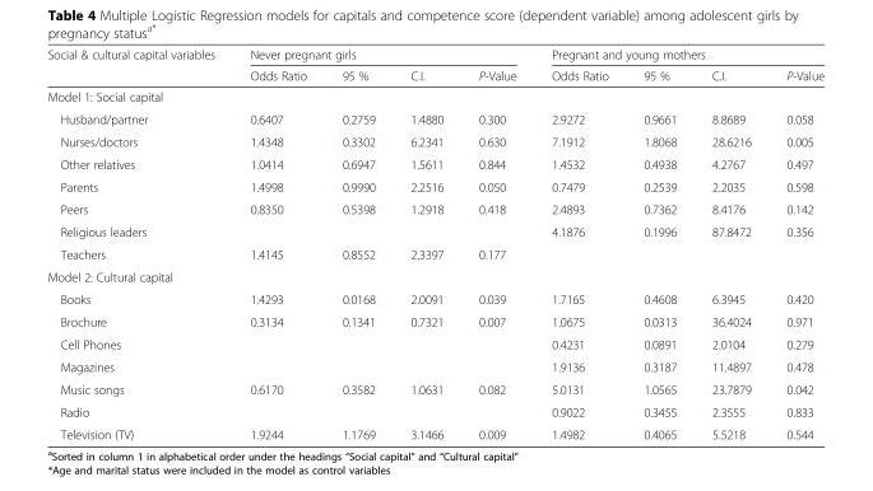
<table><thead><tr><td rowspan="2">Social &amp; cultural capital variables</td><td colspan="4">Never pregnant girls</td><td colspan="4">Pregnant and young mothers</td></tr><tr><td>Odds Ratio</td><td>95 %</td><td>C.I.</td><td>P-Value</td><td>Odds Ratio</td><td>95 %</td><td>C.I.</td><td>P-Value</td></tr></thead><tbody><tr><td colspan="9">Model 1: Social capital</td></tr><tr><td>Husband/partner</td><td>0.6407</td><td>0.2759</td><td>1.4880</td><td>0.300</td><td>2.9272</td><td>0.9661</td><td>8.8689</td><td>0.058</td></tr><tr><td>Nurses/doctors</td><td>1.4348</td><td>0.3302</td><td>6.2341</td><td>0.630</td><td>7.1912</td><td>1.8068</td><td>28.6216</td><td>0.005</td></tr><tr><td>Other relatives</td><td>1.0414</td><td>0.6947</td><td>1.5611</td><td>0.844</td><td>1.4532</td><td>0.4938</td><td>4.2767</td><td>0.497</td></tr><tr><td>Parents</td><td>1.4998</td><td>0.9990</td><td>2.2516</td><td>0.050</td><td>0.7479</td><td>0.2539</td><td>2.2035</td><td>0.598</td></tr><tr><td>Peers</td><td>0.8350</td><td>0.5398</td><td>1.2918</td><td>0.418</td><td>2.4893</td><td>0.7362</td><td>8.4176</td><td>0.142</td></tr><tr><td>Religious leaders</td><td></td><td></td><td></td><td></td><td>4.1876</td><td>0.1996</td><td>87.8472</td><td>0.356</td></tr><tr><td>Teachers</td><td>1.4145</td><td>0.8552</td><td>2.3397</td><td>0.177</td><td></td><td></td><td></td><td></td></tr><tr><td colspan="9">Model 2: Cultural capital</td></tr><tr><td>Books</td><td>1.4293</td><td>0.0168</td><td>2.0091</td><td>0.039</td><td>1.7165</td><td>0.4608</td><td>6.3945</td><td>0.420</td></tr><tr><td>Brochure</td><td>0.3134</td><td>0.1341</td><td>0.7321</td><td>0.007</td><td>1.0675</td><td>0.0313</td><td>36.4024</td><td>0.971</td></tr><tr><td>Cell Phones</td><td></td><td></td><td></td><td></td><td>0.4231</td><td>0.0891</td><td>2.0104</td><td>0.279</td></tr><tr><td>Magazines</td><td></td><td></td><td></td><td></td><td>1.9136</td><td>0.3187</td><td>11.4897</td><td>0.478</td></tr><tr><td>Music songs</td><td>0.6170</td><td>0.3582</td><td>1.0631</td><td>0.082</td><td>5.0131</td><td>1.0565</td><td>23.7879</td><td>0.042</td></tr><tr><td>Radio</td><td></td><td></td><td></td><td></td><td>0.9022</td><td>0.3455</td><td>2.3555</td><td>0.833</td></tr><tr><td>Television (TV)</td><td>1.9244</td><td>1.1769</td><td>3.1466</td><td>0.009</td><td>1.4982</td><td>0.4065</td><td>5.5218</td><td>0.544</td></tr></tbody></table>